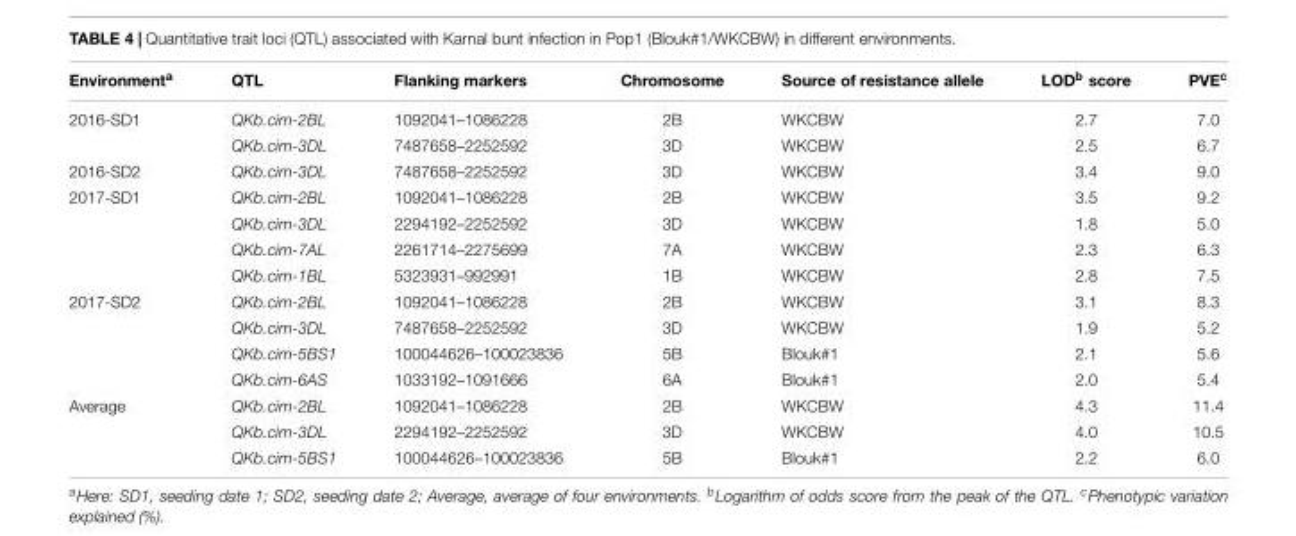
<table><thead><tr><td>Environment<sup>a</sup></td><td>QTL</td><td>Flanking markers</td><td>Chromosome</td><td>Source of resistance allele</td><td>LOD<sup>b</sup> score</td><td>PVE<sup>c</sup></td></tr></thead><tbody><tr><td rowspan="2">2016-SD1</td><td>QKb.cim-2BL</td><td>1092041–1086228</td><td>2B</td><td>WKCBW</td><td>2.7</td><td>7.0</td></tr><tr><td>QKb.cim-3DL</td><td>7487658–2252592</td><td>3D</td><td>WKCBW</td><td>2.5</td><td>6.7</td></tr><tr><td>2016-SD2</td><td>QKb.cim-3DL</td><td>7487658–2252592</td><td>3D</td><td>WKCBW</td><td>3.4</td><td>9.0</td></tr><tr><td rowspan="4">2017-SD1</td><td>QKb.cim-2BL</td><td>1092041–1086228</td><td>2B</td><td>WKCBW</td><td>3.5</td><td>9.2</td></tr><tr><td>QKb.cim-3DL</td><td>2294192–2252592</td><td>3D</td><td>WKCBW</td><td>1.8</td><td>5.0</td></tr><tr><td>QKb.cim-7AL</td><td>2261714–2275699</td><td>7A</td><td>WKCBW</td><td>2.3</td><td>6.3</td></tr><tr><td>QKb.cim-1BL</td><td>5323931–992991</td><td>1B</td><td>WKCBW</td><td>2.8</td><td>7.5</td></tr><tr><td rowspan="4">2017-SD2</td><td>QKb.cim-2BL</td><td>1092041–1086228</td><td>2B</td><td>WKCBW</td><td>3.1</td><td>8.3</td></tr><tr><td>QKb.cim-3DL</td><td>7487658–2252592</td><td>3D</td><td>WKCBW</td><td>1.9</td><td>5.2</td></tr><tr><td>QKb.cim-5BS1</td><td>100044626–100023836</td><td>5B</td><td>Blouk#1</td><td>2.1</td><td>5.6</td></tr><tr><td>QKb.cim-6AS</td><td>1033192–1091666</td><td>6A</td><td>Blouk#1</td><td>2.0</td><td>5.4</td></tr><tr><td rowspan="3">Average</td><td>QKb.cim-2BL</td><td>1092041–1086228</td><td>2B</td><td>WKCBW</td><td>4.3</td><td>11.4</td></tr><tr><td>QKb.cim-3DL</td><td>2294192–2252592</td><td>3D</td><td>WKCBW</td><td>4.0</td><td>10.5</td></tr><tr><td>QKb.cim-5BS1</td><td>100044626–100023836</td><td>5B</td><td>Blouk#1</td><td>2.2</td><td>6.0</td></tr></tbody></table>